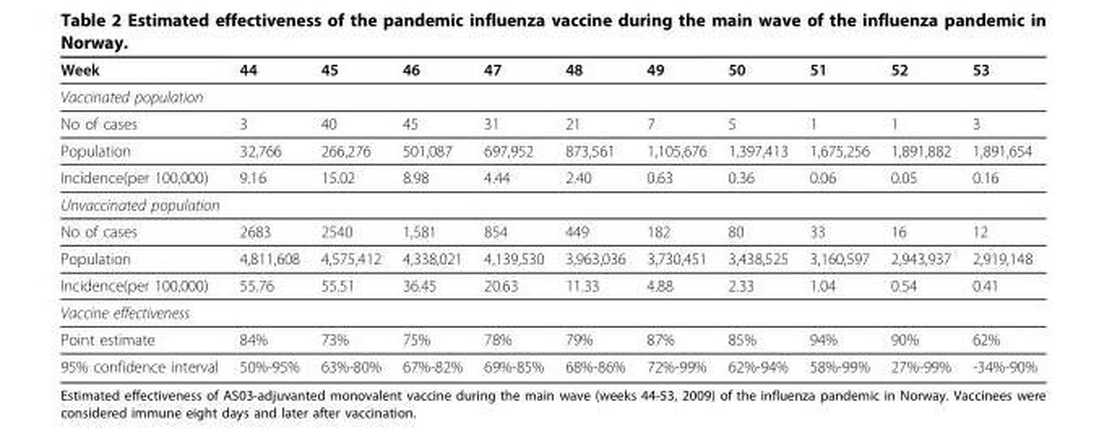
<table><thead><tr><td>Week</td><td>44</td><td>45</td><td>46</td><td>47</td><td>48</td><td>49</td><td>50</td><td>51</td><td>52</td><td>53</td></tr></thead><tbody><tr><td colspan="11">Vaccinated population</td></tr><tr><td>No of cases</td><td>3</td><td>40</td><td>45</td><td>31</td><td>21</td><td>7</td><td>5</td><td>1</td><td>1</td><td>3</td></tr><tr><td>Population</td><td>32,766</td><td>266,276</td><td>501,087</td><td>697,952</td><td>873,561</td><td>1,105,676</td><td>1,397,413</td><td>1,675,256</td><td>1,891,882</td><td>1,891,654</td></tr><tr><td>Incidence(per 100,000)</td><td>9.16</td><td>15.02</td><td>8.98</td><td>4.44</td><td>2.40</td><td>0.63</td><td>0.36</td><td>0.06</td><td>0.05</td><td>0.16</td></tr><tr><td colspan="11">Unvaccinated population</td></tr><tr><td>No of cases</td><td>2683</td><td>2540</td><td>1,581</td><td>854</td><td>449</td><td>182</td><td>80</td><td>33</td><td>16</td><td>12</td></tr><tr><td>Population</td><td>4,811,608</td><td>4,575,412</td><td>4,338,021</td><td>4,139,530</td><td>3,963,036</td><td>3,730,451</td><td>3,438,525</td><td>3,160,597</td><td>2,943,937</td><td>2,919,148</td></tr><tr><td>Incidence(per 100,000)</td><td>55.76</td><td>55.51</td><td>36.45</td><td>20.63</td><td>11.33</td><td>4.88</td><td>2.33</td><td>1.04</td><td>0.54</td><td>0.41</td></tr><tr><td colspan="11">Vaccine effectiveness</td></tr><tr><td>Point estimate</td><td>84%</td><td>73%</td><td>75%</td><td>78%</td><td>79%</td><td>87%</td><td>85%</td><td>94%</td><td>90%</td><td>62%</td></tr><tr><td>95% confidence interval</td><td>50%-95%</td><td>63%-80%</td><td>67%-82%</td><td>69%-85%</td><td>68%-86%</td><td>72%-99%</td><td>62%-94%</td><td>58%-99%</td><td>27%-99%</td><td>-34%-90%</td></tr></tbody></table>